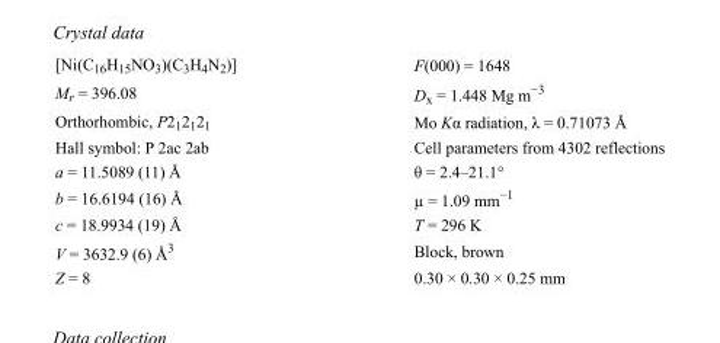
<table><tbody><tr><td>[Ni(C<sub>16</sub>H<sub>15</sub>NO<sub>3</sub>)(C<sub>3</sub>H<sub>4</sub>N<sub>2</sub>)]</td><td>F(000) = 1648</td></tr><tr><td>M<sub>r</sub> = 396.08</td><td>D<sub>x</sub> = 1.448 Mg m<sup>−3</sup></td></tr><tr><td>Orthorhombic, P2<sub>1</sub>2<sub>1</sub>2<sub>1</sub></td><td>Mo Kα radiation, λ = 0.71073 Å</td></tr><tr><td>Hall symbol: P 2ac 2ab</td><td>Cell parameters from 4302 reflections</td></tr><tr><td>a = 11.5089 (11) Å</td><td>θ = 2.4–21.1°</td></tr><tr><td>b = 16.6194 (16) Å</td><td>µ = 1.09 mm<sup>−1</sup></td></tr><tr><td>c = 18.9934 (19) Å</td><td>T = 296 K</td></tr><tr><td>V = 3632.9 (6) Å<sup>3</sup></td><td>Block, brown</td></tr><tr><td>Z = 8</td><td>0.30 × 0.30 × 0.25 mm</td></tr></tbody></table>